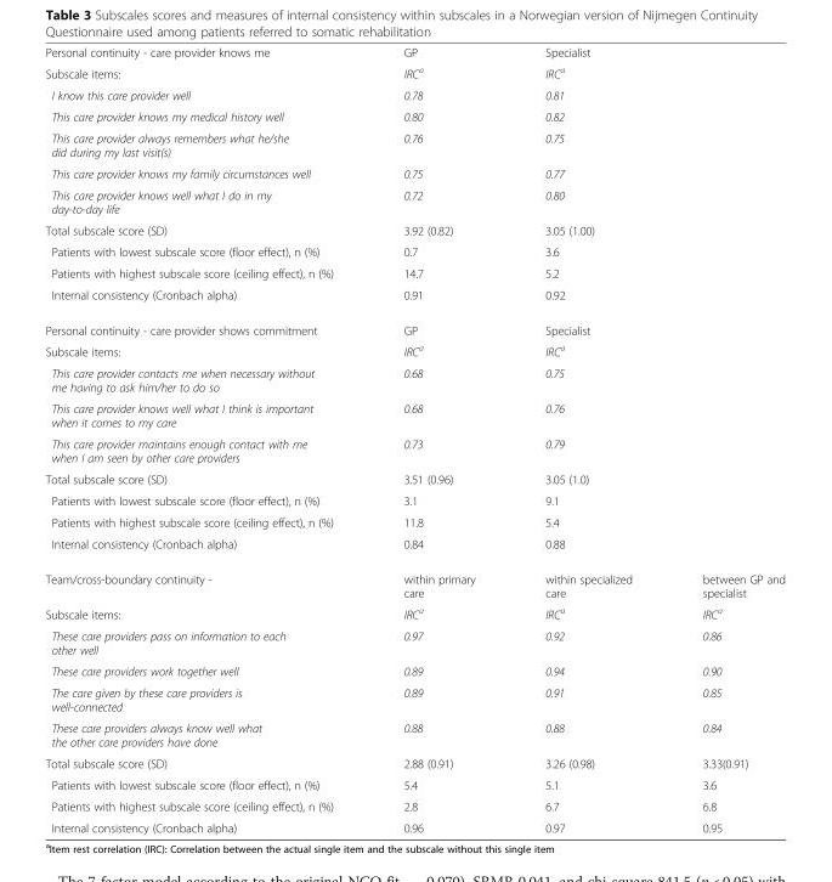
<table><tbody><tr><td>Personal continuity - care provider knows me</td><td>GP</td><td>Specialist</td><td></td></tr><tr><td>Subscale items:</td><td>IRC<sup>a</sup></td><td>IRC<sup>a</sup></td><td></td></tr><tr><td>I know this care provider well</td><td>0.78</td><td>0.81</td><td></td></tr><tr><td>This care provider knows my medical history well</td><td>0.80</td><td>0.82</td><td></td></tr><tr><td>This care provider always remembers what he/she did during my last visit(s)</td><td>0.76</td><td>0.75</td><td></td></tr><tr><td>This care provider knows my family circumstances well</td><td>0.75</td><td>0.77</td><td></td></tr><tr><td>This care provider knows well what I do in my day-to-day life</td><td>0.72</td><td>0.80</td><td></td></tr><tr><td>Total subscale score (SD)</td><td>3.92 (0.82)</td><td>3.05 (1.00)</td><td></td></tr><tr><td>Patients with lowest subscale score (floor effect), n (%)</td><td>0.7</td><td>3.6</td><td></td></tr><tr><td>Patients with highest subscale score (ceiling effect), n (%)</td><td>14.7</td><td>5.2</td><td></td></tr><tr><td>Internal consistency (Cronbach alpha)</td><td>0.91</td><td>0.92</td><td></td></tr><tr><td>Personal continuity - care provider shows commitment</td><td>GP</td><td>Specialist</td><td></td></tr><tr><td>Subscale items:</td><td>IRC<sup>a</sup></td><td>IRC<sup>a</sup></td><td></td></tr><tr><td>This care provider contacts me when necessary without me having to ask him/her to do so</td><td>0.68</td><td>0.75</td><td></td></tr><tr><td>This care provider knows well what I think is important when it comes to my care</td><td>0.68</td><td>0.76</td><td></td></tr><tr><td>This care provider maintains enough contact with me when I am seen by other care providers</td><td>0.73</td><td>0.79</td><td></td></tr><tr><td>Total subscale score (SD)</td><td>3.51 (0.96)</td><td>3.05 (1.0)</td><td></td></tr><tr><td>Patients with lowest subscale score (floor effect), n (%)</td><td>3.1</td><td>9.1</td><td></td></tr><tr><td>Patients with highest subscale score (ceiling effect), n (%)</td><td>11.8</td><td>5.4</td><td></td></tr><tr><td>Internal consistency (Cronbach alpha)</td><td>0.84</td><td>0.88</td><td></td></tr><tr><td>Team/cross-boundary continuity -</td><td>within primary care</td><td>within specialized care</td><td>between GP and specialist</td></tr><tr><td>Subscale items:</td><td>IRC<sup>a</sup></td><td>IRC<sup>a</sup></td><td>IRC<sup>a</sup></td></tr><tr><td>These care providers pass on information to each other well</td><td>0.97</td><td>0.92</td><td>0.86</td></tr><tr><td>These care providers work together well</td><td>0.89</td><td>0.94</td><td>0.90</td></tr><tr><td>The care given by these care providers is well-connected</td><td>0.89</td><td>0.91</td><td>0.85</td></tr><tr><td>These care providers always know well what the other care providers have done</td><td>0.88</td><td>0.88</td><td>0.84</td></tr><tr><td>Total subscale score (SD)</td><td>2.88 (0.91)</td><td>3.26 (0.98)</td><td>3.33(0.91)</td></tr><tr><td>Patients with lowest subscale score (floor effect), n (%)</td><td>5.4</td><td>5.1</td><td>3.6</td></tr><tr><td>Patients with highest subscale score (ceiling effect), n (%)</td><td>2.8</td><td>6.7</td><td>6.8</td></tr><tr><td>Internal consistency (Cronbach alpha)</td><td>0.96</td><td>0.97</td><td>0.95</td></tr></tbody></table>